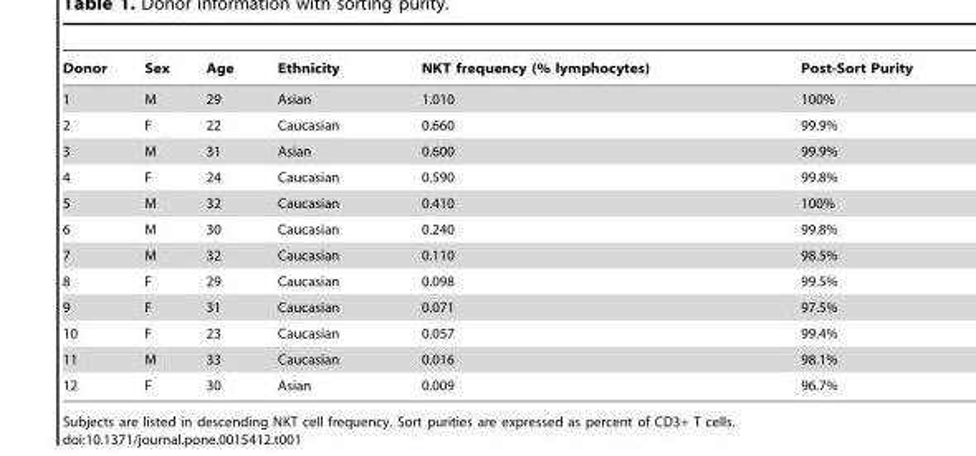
<table><thead><tr><td>Donor</td><td>Sex</td><td>Age</td><td>Ethnicity</td><td>NKT frequency (% lymphocytes)</td><td>Post-Sort Purity</td></tr></thead><tbody><tr><td>1</td><td>M</td><td>29</td><td>Asian</td><td>1.010</td><td>100%</td></tr><tr><td>2</td><td>F</td><td>22</td><td>Caucasian</td><td>0.660</td><td>99.9%</td></tr><tr><td>3</td><td>M</td><td>31</td><td>Asian</td><td>0.600</td><td>99.9%</td></tr><tr><td>4</td><td>F</td><td>24</td><td>Caucasian</td><td>0.590</td><td>99.8%</td></tr><tr><td>5</td><td>M</td><td>32</td><td>Caucasian</td><td>0.410</td><td>100%</td></tr><tr><td>6</td><td>M</td><td>30</td><td>Caucasian</td><td>0.240</td><td>99.8%</td></tr><tr><td>7</td><td>M</td><td>32</td><td>Caucasian</td><td>0.110</td><td>98.5%</td></tr><tr><td>8</td><td>F</td><td>29</td><td>Caucasian</td><td>0.098</td><td>99.5%</td></tr><tr><td>9</td><td>F</td><td>31</td><td>Caucasian</td><td>0.071</td><td>97.5%</td></tr><tr><td>10</td><td>F</td><td>23</td><td>Caucasian</td><td>0.057</td><td>99.4%</td></tr><tr><td>11</td><td>M</td><td>33</td><td>Caucasian</td><td>0.016</td><td>98.1%</td></tr><tr><td>12</td><td>F</td><td>30</td><td>Asian</td><td>0.009</td><td>96.7%</td></tr></tbody></table>